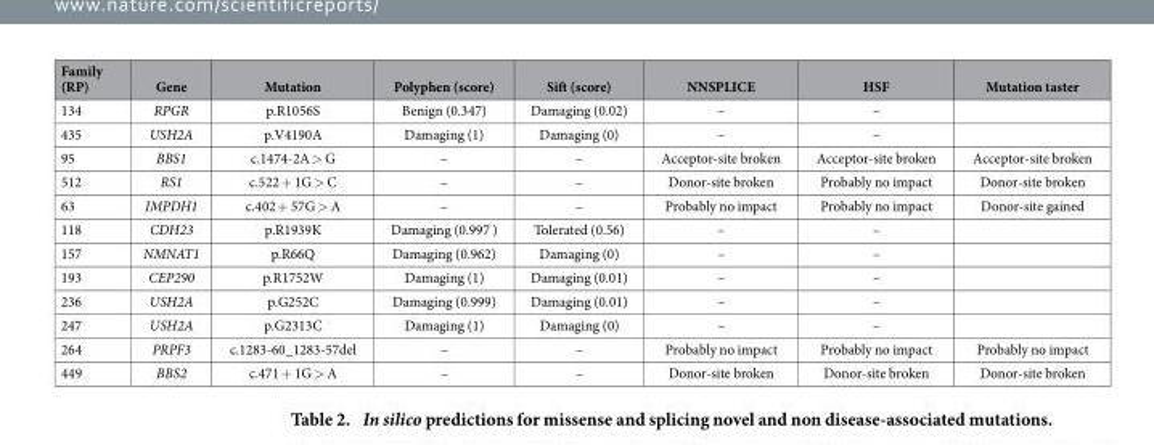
<table><thead><tr><td>Family (RP)</td><td>Gene</td><td>Mutation</td><td>Polyphen (score)</td><td>Sift (score)</td><td>NNSPLICE</td><td>HSF</td><td>Mutation taster</td></tr></thead><tbody><tr><td>134</td><td>RPGR</td><td>p.R1056S</td><td>Benign (0.347)</td><td>Damaging (0.02)</td><td>–</td><td>–</td><td></td></tr><tr><td>435</td><td>USH2A</td><td>p.V4190A</td><td>Damaging (1)</td><td>Damaging (0)</td><td>–</td><td>–</td><td></td></tr><tr><td>95</td><td>BBS1</td><td>c.1474-2A &gt; G</td><td>–</td><td>–</td><td>Acceptor-site broken</td><td>Acceptor-site broken</td><td>Acceptor-site broken</td></tr><tr><td>512</td><td>RS1</td><td>c.522 + 1G &gt; C</td><td>–</td><td>–</td><td>Donor-site broken</td><td>Probably no impact</td><td>Donor-site broken</td></tr><tr><td>63</td><td>IMPDH1</td><td>c.402 + 57G &gt; A</td><td>–</td><td>–</td><td>Probably no impact</td><td>Probably no impact</td><td>Donor-site gained</td></tr><tr><td>118</td><td>CDH23</td><td>p.R1939K</td><td>Damaging (0.997 )</td><td>Tolerated (0.56)</td><td>–</td><td>–</td><td></td></tr><tr><td>157</td><td>NMNAT1</td><td>p.R66Q</td><td>Damaging (0.962)</td><td>Damaging (0)</td><td>–</td><td>–</td><td></td></tr><tr><td>193</td><td>CEP290</td><td>p.R1752W</td><td>Damaging (1)</td><td>Damaging (0.01)</td><td>–</td><td>–</td><td></td></tr><tr><td>236</td><td>USH2A</td><td>p.G252C</td><td>Damaging (0.999)</td><td>Damaging (0.01)</td><td>–</td><td>–</td><td></td></tr><tr><td>247</td><td>USH2A</td><td>p.G2313C</td><td>Damaging (1)</td><td>Damaging (0)</td><td>–</td><td>–</td><td></td></tr><tr><td>264</td><td>PRPF3</td><td>c.1283-60_1283-57del</td><td>–</td><td>–</td><td>Probably no impact</td><td>Probably no impact</td><td>Probably no impact</td></tr><tr><td>449</td><td>BBS2</td><td>c.471 + 1G &gt; A</td><td>–</td><td>–</td><td>Donor-site broken</td><td>Donor-site broken</td><td>Donor-site broken</td></tr></tbody></table>